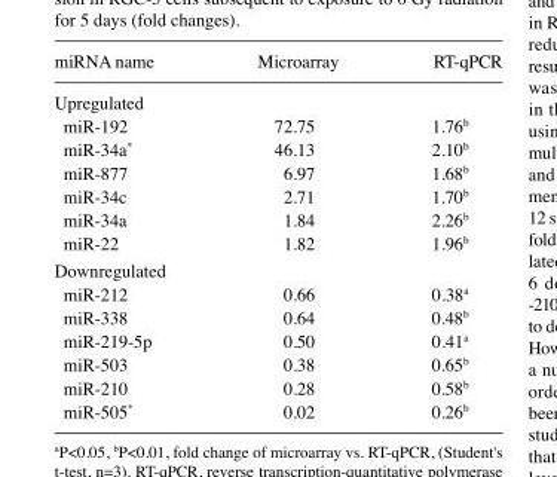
<table><thead><tr><td>miRNA name</td><td>Microarray</td><td>RT-qPCR</td></tr></thead><tbody><tr><td colspan="3">Upregulated</td></tr><tr><td>miR-192</td><td>72.75</td><td>1.76<sup>b</sup></td></tr><tr><td>miR-34a*</td><td>46.13</td><td>2.10<sup>b</sup></td></tr><tr><td>miR-877</td><td>6.97</td><td>1.68<sup>b</sup></td></tr><tr><td>miR-34c</td><td>2.71</td><td>1.70<sup>b</sup></td></tr><tr><td>miR-34a</td><td>1.84</td><td>2.26<sup>b</sup></td></tr><tr><td>miR-22</td><td>1.82</td><td>1.96<sup>b</sup></td></tr><tr><td colspan="3">Downregulated</td></tr><tr><td>miR-212</td><td>0.66</td><td>0.38<sup>a</sup></td></tr><tr><td>miR-338</td><td>0.64</td><td>0.48<sup>b</sup></td></tr><tr><td>miR-219-5p</td><td>0.50</td><td>0.41<sup>a</sup></td></tr><tr><td>miR-503</td><td>0.38</td><td>0.65<sup>b</sup></td></tr><tr><td>miR-210</td><td>0.28</td><td>0.58<sup>b</sup></td></tr><tr><td>miR-505*</td><td>0.02</td><td>0.26<sup>b</sup></td></tr></tbody></table>